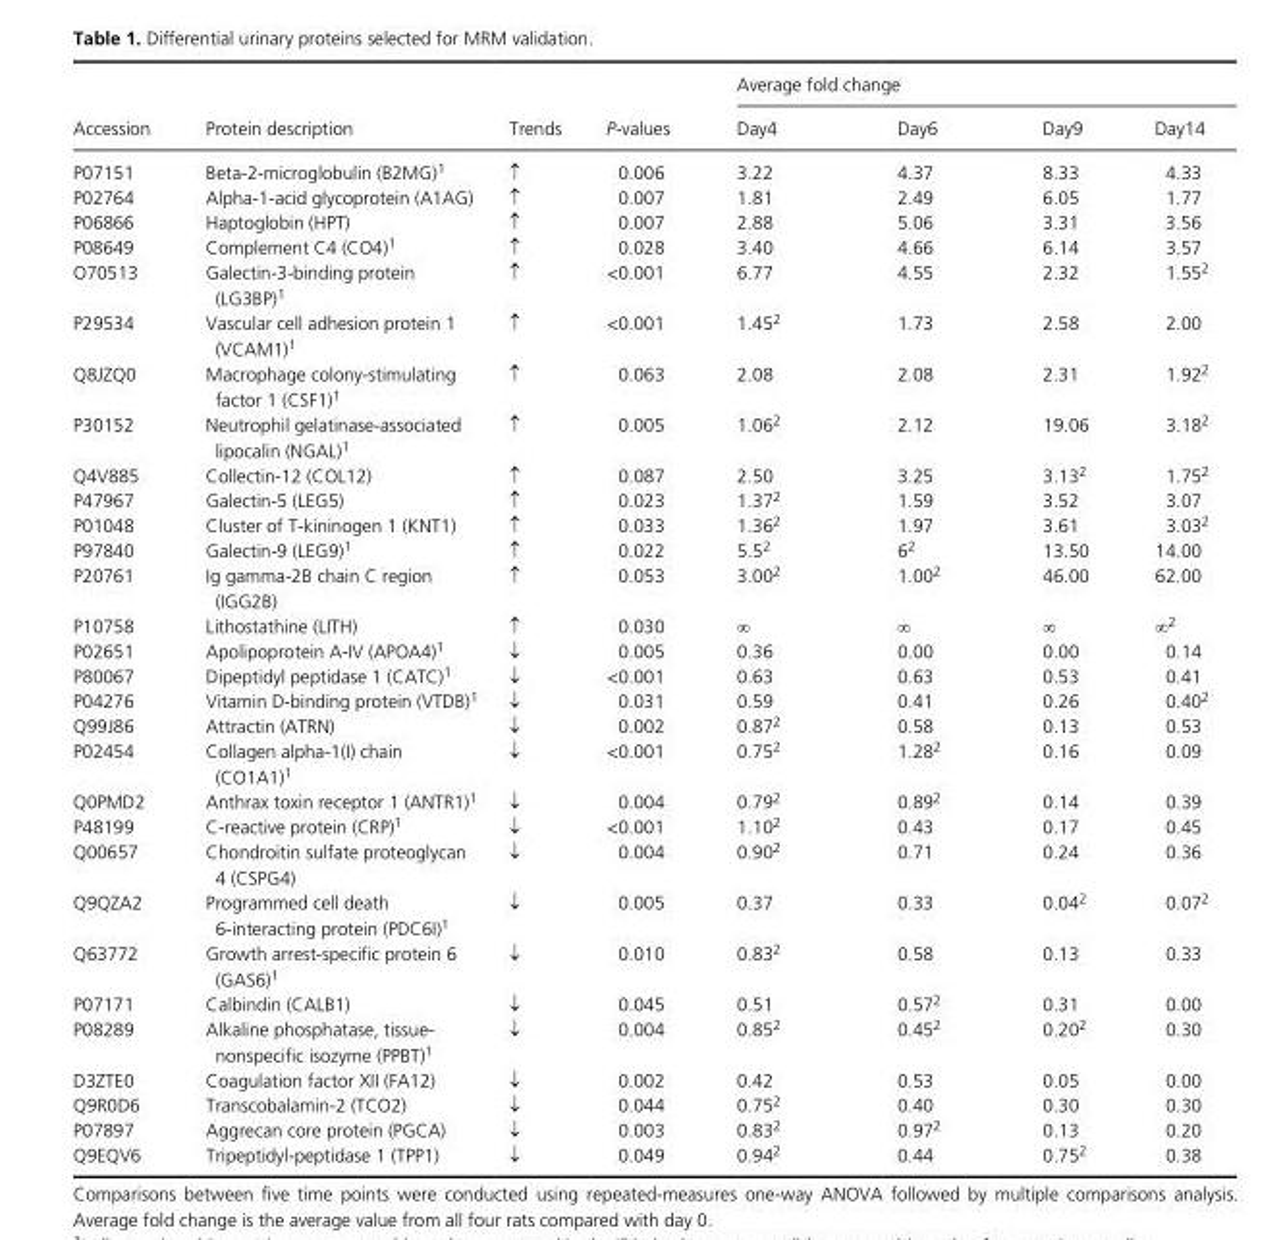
<table><thead><tr><td rowspan="2">Accession</td><td rowspan="2">Protein description</td><td rowspan="2">Trends</td><td rowspan="2">P- values</td><td colspan="4">Average fold change</td></tr><tr><td>Day4</td><td>Day6</td><td>Day9</td><td>Day14</td></tr></thead><tbody><tr><td>P07151</td><td>Beta- 2- microglobulin (B2MG)1</td><td>↑</td><td>0.006</td><td>3.22</td><td>4.37</td><td>8.33</td><td>4.33</td></tr><tr><td>P02764</td><td>Alpha- 1- acid glycoprotein (A1AG)</td><td>↑</td><td>0.007</td><td>1.81</td><td>2.49</td><td>6.05</td><td>1.77</td></tr><tr><td>P06866</td><td>Haptoglobin (HPT)</td><td>↑</td><td>0.007</td><td>2.88</td><td>5.06</td><td>3.31</td><td>3.56</td></tr><tr><td>P08649</td><td>Complement C4 (CO4)1</td><td>↑</td><td>0.028</td><td>3.40</td><td>4.66</td><td>6.14</td><td>3.57</td></tr><tr><td>O70513</td><td>Galectin- 3- binding protein (LG3BP)1</td><td>↑</td><td>&lt;0.001</td><td>6.77</td><td>4.55</td><td>2.32</td><td>1.552</td></tr><tr><td>P29534</td><td>Vascular cell adhesion protein 1 (VCAM1)1</td><td>↑</td><td>&lt;0.001</td><td>1.452</td><td>1.73</td><td>2.58</td><td>2.00</td></tr><tr><td>Q8JZQ0</td><td>Macrophage colony- stimulating factor 1 (CSF1)1</td><td>↑</td><td>0.063</td><td>2.08</td><td>2.08</td><td>2.31</td><td>1.922</td></tr><tr><td>P30152</td><td>Neutrophil gelatinase- associated lipocalin (NGAL)1</td><td>↑</td><td>0.005</td><td>1.062</td><td>2.12</td><td>19.06</td><td>3.182</td></tr><tr><td>Q4V885</td><td>Collectin- 12 (COL12)</td><td>↑</td><td>0.087</td><td>2.50</td><td>3.25</td><td>3.132</td><td>1.752</td></tr><tr><td>P47967</td><td>Galectin- 5 (LEG5)</td><td>↑</td><td>0.023</td><td>1.372</td><td>1.59</td><td>3.52</td><td>3.07</td></tr><tr><td>P01048</td><td>Cluster of T- kininogen 1 (KNT1)</td><td>↑</td><td>0.033</td><td>1.362</td><td>1.97</td><td>3.61</td><td>3.032</td></tr><tr><td>P97840</td><td>Galectin- 9 (LEG9)1</td><td>↑</td><td>0.022</td><td>5.52</td><td>62</td><td>13.50</td><td>14.00</td></tr><tr><td>P20761</td><td>Ig gamma- 2B chain C region (IGG2B)</td><td>↑</td><td>0.053</td><td>3.002</td><td>1.002</td><td>46.00</td><td>62.00</td></tr><tr><td>P10758</td><td>Lithostathine (LITH)</td><td>↑</td><td>0.030</td><td>∞</td><td>∞</td><td>∞</td><td>∞2</td></tr><tr><td>P02651</td><td>Apolipoprotein A- IV (APOA4)1</td><td>↓</td><td>0.005</td><td>0.36</td><td>0.00</td><td>0.00</td><td>0.14</td></tr><tr><td>P80067</td><td>Dipeptidyl peptidase 1 (CATC)1</td><td>↓</td><td>&lt;0.001</td><td>0.63</td><td>0.63</td><td>0.53</td><td>0.41</td></tr><tr><td>P04276</td><td>Vitamin D- binding protein (VTDB)1</td><td>↓</td><td>0.031</td><td>0.59</td><td>0.41</td><td>0.26</td><td>0.402</td></tr><tr><td>Q99J86</td><td>Attractin (ATRN)</td><td>↓</td><td>0.002</td><td>0.872</td><td>0.58</td><td>0.13</td><td>0.53</td></tr><tr><td>P02454</td><td>Collagen alpha- 1(I) chain (CO1A1)1</td><td>↓</td><td>&lt;0.001</td><td>0.752</td><td>1.282</td><td>0.16</td><td>0.09</td></tr><tr><td>Q0PMD2</td><td>Anthrax toxin receptor 1 (ANTR1)1</td><td>↓</td><td>0.004</td><td>0.792</td><td>0.892</td><td>0.14</td><td>0.39</td></tr><tr><td>P48199</td><td>C- reactive protein (CRP)1</td><td>↓</td><td>&lt;0.001</td><td>1.102</td><td>0.43</td><td>0.17</td><td>0.45</td></tr><tr><td>Q00657</td><td>Chondroitin sulfate proteoglycan 4 (CSPG4)</td><td>↓</td><td>0.004</td><td>0.902</td><td>0.71</td><td>0.24</td><td>0.36</td></tr><tr><td>Q9QZA2</td><td>Programmed cell death 6- interacting protein (PDC6I)1</td><td>↓</td><td>0.005</td><td>0.37</td><td>0.33</td><td>0.042</td><td>0.072</td></tr><tr><td>Q63772</td><td>Growth arrest- specific protein 6 (GAS6)1</td><td>↓</td><td>0.010</td><td>0.832</td><td>0.58</td><td>0.13</td><td>0.33</td></tr><tr><td>P07171</td><td>Calbindin (CALB1)</td><td>↓</td><td>0.045</td><td>0.51</td><td>0.572</td><td>0.31</td><td>0.00</td></tr><tr><td>P08289</td><td>Alkaline phosphatase, tissue- nonspecific isozyme (PPBT)1</td><td>↓</td><td>0.004</td><td>0.852</td><td>0.452</td><td>0.202</td><td>0.30</td></tr><tr><td>D3ZTE0</td><td>Coagulation factor XII (FA12)</td><td>↓</td><td>0.002</td><td>0.42</td><td>0.53</td><td>0.05</td><td>0.00</td></tr><tr><td>Q9R0D6</td><td>Transcobalamin- 2 (TCO2)</td><td>↓</td><td>0.044</td><td>0.752</td><td>0.40</td><td>0.30</td><td>0.30</td></tr><tr><td>P07897</td><td>Aggrecan core protein (PGCA)</td><td>↓</td><td>0.003</td><td>0.832</td><td>0.972</td><td>0.13</td><td>0.20</td></tr><tr><td>Q9EQV6</td><td>Tripeptidyl- peptidase 1 (TPP1)</td><td>↓</td><td>0.049</td><td>0.942</td><td>0.44</td><td>0.752</td><td>0.38</td></tr></tbody></table>